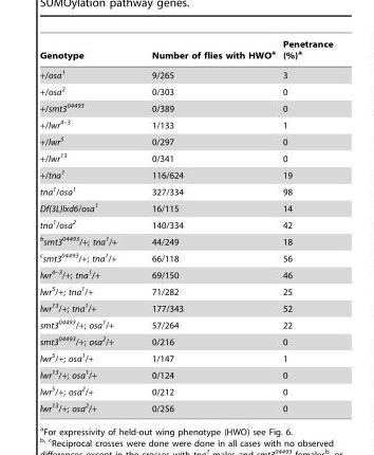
<table><thead><tr><td>Genotype</td><td>Number of flies with HWO<sup>a</sup></td><td>Penetrance (%)<sup>a</sup></td></tr></thead><tbody><tr><td>+/osa<sup>1</sup></td><td>9/265</td><td>3</td></tr><tr><td>+/osa<sup>2</sup></td><td>0/303</td><td>0</td></tr><tr><td>+/smt3<sup>04493</sup></td><td>0/389</td><td>0</td></tr><tr><td>+/lwr<sup>4–3</sup></td><td>1/133</td><td>1</td></tr><tr><td>+/lwr<sup>5</sup></td><td>0/297</td><td>0</td></tr><tr><td>+/lwr<sup>13</sup></td><td>0/341</td><td>0</td></tr><tr><td>+/tna<sup>1</sup></td><td>116/624</td><td>19</td></tr><tr><td>tna<sup>1</sup>/osa<sup>1</sup></td><td>327/334</td><td>98</td></tr><tr><td>Df(3L)lxd6/osa<sup>1</sup></td><td>16/115</td><td>14</td></tr><tr><td>tna<sup>1</sup>/osa<sup>2</sup></td><td>140/334</td><td>42</td></tr><tr><td><sup>b</sup>smt3<sup>04493</sup>/+; tna<sup>1</sup>/+</td><td>44/249</td><td>18</td></tr><tr><td><sup>c</sup>smt3<sup>04493</sup>/+; tna<sup>1</sup>/+</td><td>66/118</td><td>56</td></tr><tr><td>lwr<sup>4–3</sup>/+; tna<sup>1</sup>/+</td><td>69/150</td><td>46</td></tr><tr><td>lwr<sup>5</sup>/+; tna<sup>1</sup>/+</td><td>71/282</td><td>25</td></tr><tr><td>lwr<sup>13</sup>/+; tna<sup>1</sup>/+</td><td>177/343</td><td>52</td></tr><tr><td>smt3<sup>04493</sup>/+; osa<sup>1</sup>/+</td><td>57/264</td><td>22</td></tr><tr><td>smt3<sup>04493</sup>/+; osa<sup>2</sup>/+</td><td>0/216</td><td>0</td></tr><tr><td>lwr<sup>5</sup>/+; osa<sup>1</sup>/+</td><td>1/147</td><td>1</td></tr><tr><td>lwr<sup>13</sup>/+; osa<sup>1</sup>/+</td><td>0/124</td><td>0</td></tr><tr><td>lwr<sup>5</sup>/+; osa<sup>2</sup>/+</td><td>0/212</td><td>0</td></tr><tr><td>lwr<sup>13</sup>/+; osa<sup>2</sup>/+</td><td>0/256</td><td>0</td></tr></tbody></table>